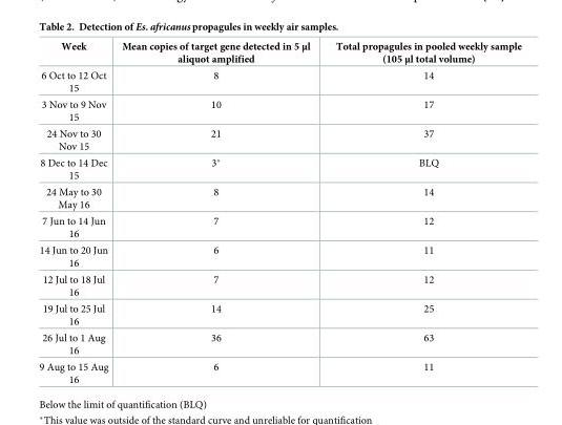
<table><thead><tr><td>Week</td><td>Mean copies of target gene detected in 5 μl aliquot amplified</td><td>Total propagules in pooled weekly sample (105 μl total volume)</td></tr></thead><tbody><tr><td>6 Oct to 12 Oct 15</td><td>8</td><td>14</td></tr><tr><td>3 Nov to 9 Nov 15</td><td>10</td><td>17</td></tr><tr><td>24 Nov to 30 Nov 15</td><td>21</td><td>37</td></tr><tr><td>8 Dec to 14 Dec 15</td><td>3*</td><td>BLQ</td></tr><tr><td>24 May to 30 May 16</td><td>8</td><td>14</td></tr><tr><td>7 Jun to 14 Jun 16</td><td>7</td><td>12</td></tr><tr><td>14 Jun to 20 Jun 16</td><td>6</td><td>11</td></tr><tr><td>12 Jul to 18 Jul 16</td><td>7</td><td>12</td></tr><tr><td>19 Jul to 25 Jul 16</td><td>14</td><td>25</td></tr><tr><td>26 Jul to 1 Aug 16</td><td>36</td><td>63</td></tr><tr><td>9 Aug to 15 Aug 16</td><td>6</td><td>11</td></tr></tbody></table>